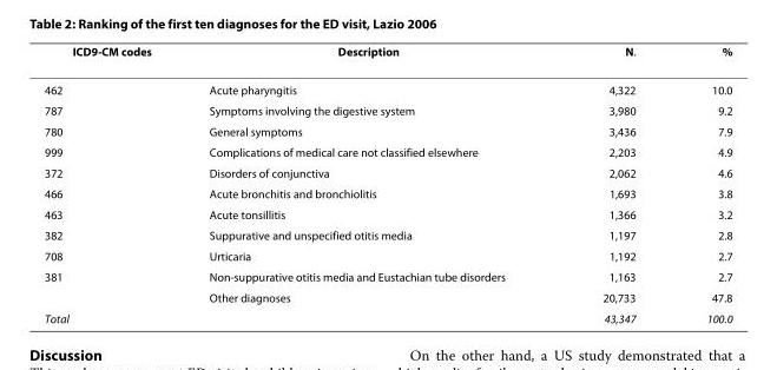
<table><thead><tr><td>ICD9-CM codes</td><td>Description</td><td>N.</td><td>%</td></tr></thead><tbody><tr><td>462</td><td>Acute pharyngitis</td><td>4,322</td><td>10.0</td></tr><tr><td>787</td><td>Symptoms involving the digestive system</td><td>3,980</td><td>9.2</td></tr><tr><td>780</td><td>General symptoms</td><td>3,436</td><td>7.9</td></tr><tr><td>999</td><td>Complications of medical care not classified elsewhere</td><td>2,203</td><td>4.9</td></tr><tr><td>372</td><td>Disorders of conjunctiva</td><td>2,062</td><td>4.6</td></tr><tr><td>466</td><td>Acute bronchitis and bronchiolitis</td><td>1,693</td><td>3.8</td></tr><tr><td>463</td><td>Acute tonsillitis</td><td>1,366</td><td>3.2</td></tr><tr><td>382</td><td>Suppurative and unspecified otitis media</td><td>1,197</td><td>2.8</td></tr><tr><td>708</td><td>Urticaria</td><td>1,192</td><td>2.7</td></tr><tr><td rowspan="2">381</td><td>Non-suppurative otitis media and Eustachian tube disorders</td><td>1,163</td><td>2.7</td></tr><tr><td>Other diagnoses</td><td>20,733</td><td>47.8</td></tr><tr><td>Total</td><td></td><td>43,347</td><td>100.0</td></tr></tbody></table>